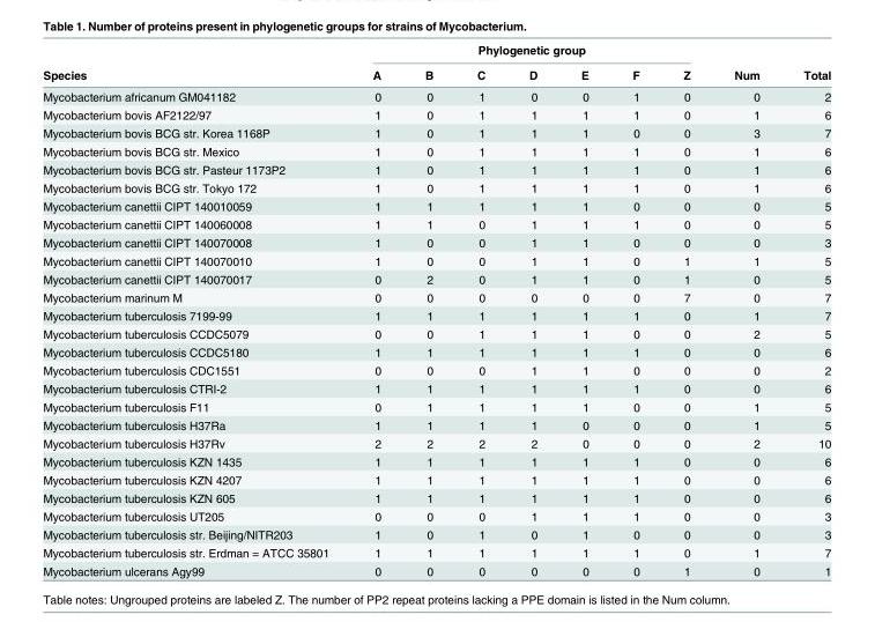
<table><thead><tr><td rowspan="2">Species</td><td colspan="7">Phylogenetic group</td><td rowspan="2">Num</td><td rowspan="2">Total</td></tr><tr><td>A</td><td>B</td><td>C</td><td>D</td><td>E</td><td>F</td><td>Z</td></tr></thead><tbody><tr><td>Mycobacterium africanum GM041182</td><td>0</td><td>0</td><td>1</td><td>0</td><td>0</td><td>1</td><td>0</td><td>0</td><td>2</td></tr><tr><td>Mycobacterium bovis AF2122/97</td><td>1</td><td>0</td><td>1</td><td>1</td><td>1</td><td>1</td><td>0</td><td>1</td><td>6</td></tr><tr><td>Mycobacterium bovis BCG str. Korea 1168P</td><td>1</td><td>0</td><td>1</td><td>1</td><td>1</td><td>0</td><td>0</td><td>3</td><td>7</td></tr><tr><td>Mycobacterium bovis BCG str. Mexico</td><td>1</td><td>0</td><td>1</td><td>1</td><td>1</td><td>1</td><td>0</td><td>1</td><td>6</td></tr><tr><td>Mycobacterium bovis BCG str. Pasteur 1173P2</td><td>1</td><td>0</td><td>1</td><td>1</td><td>1</td><td>1</td><td>0</td><td>1</td><td>6</td></tr><tr><td>Mycobacterium bovis BCG str. Tokyo 172</td><td>1</td><td>0</td><td>1</td><td>1</td><td>1</td><td>1</td><td>0</td><td>1</td><td>6</td></tr><tr><td>Mycobacterium canettii CIPT 140010059</td><td>1</td><td>1</td><td>1</td><td>1</td><td>1</td><td>0</td><td>0</td><td>0</td><td>5</td></tr><tr><td>Mycobacterium canettii CIPT 140060008</td><td>1</td><td>1</td><td>0</td><td>1</td><td>1</td><td>1</td><td>0</td><td>0</td><td>5</td></tr><tr><td>Mycobacterium canettii CIPT 140070008</td><td>1</td><td>0</td><td>0</td><td>1</td><td>1</td><td>0</td><td>0</td><td>0</td><td>3</td></tr><tr><td>Mycobacterium canettii CIPT 140070010</td><td>1</td><td>0</td><td>0</td><td>1</td><td>1</td><td>0</td><td>1</td><td>1</td><td>5</td></tr><tr><td>Mycobacterium canettii CIPT 140070017</td><td>0</td><td>2</td><td>0</td><td>1</td><td>1</td><td>0</td><td>1</td><td>0</td><td>5</td></tr><tr><td>Mycobacterium marinum M</td><td>0</td><td>0</td><td>0</td><td>0</td><td>0</td><td>0</td><td>7</td><td>0</td><td>7</td></tr><tr><td>Mycobacterium tuberculosis 7199-99</td><td>1</td><td>1</td><td>1</td><td>1</td><td>1</td><td>1</td><td>0</td><td>1</td><td>7</td></tr><tr><td>Mycobacterium tuberculosis CCDC5079</td><td>0</td><td>0</td><td>1</td><td>1</td><td>1</td><td>0</td><td>0</td><td>2</td><td>5</td></tr><tr><td>Mycobacterium tuberculosis CCDC5180</td><td>1</td><td>1</td><td>1</td><td>1</td><td>1</td><td>1</td><td>0</td><td>0</td><td>6</td></tr><tr><td>Mycobacterium tuberculosis CDC1551</td><td>0</td><td>0</td><td>0</td><td>1</td><td>1</td><td>0</td><td>0</td><td>0</td><td>2</td></tr><tr><td>Mycobacterium tuberculosis CTRI-2</td><td>1</td><td>1</td><td>1</td><td>1</td><td>1</td><td>1</td><td>0</td><td>0</td><td>6</td></tr><tr><td>Mycobacterium tuberculosis F11</td><td>0</td><td>1</td><td>1</td><td>1</td><td>1</td><td>0</td><td>0</td><td>1</td><td>5</td></tr><tr><td>Mycobacterium tuberculosis H37Ra</td><td>1</td><td>1</td><td>1</td><td>1</td><td>0</td><td>0</td><td>0</td><td>1</td><td>5</td></tr><tr><td>Mycobacterium tuberculosis H37Rv</td><td>2</td><td>2</td><td>2</td><td>2</td><td>0</td><td>0</td><td>0</td><td>2</td><td>10</td></tr><tr><td>Mycobacterium tuberculosis KZN 1435</td><td>1</td><td>1</td><td>1</td><td>1</td><td>1</td><td>1</td><td>0</td><td>0</td><td>6</td></tr><tr><td>Mycobacterium tuberculosis KZN 4207</td><td>1</td><td>1</td><td>1</td><td>1</td><td>1</td><td>1</td><td>0</td><td>0</td><td>6</td></tr><tr><td>Mycobacterium tuberculosis KZN 605</td><td>1</td><td>1</td><td>1</td><td>1</td><td>1</td><td>1</td><td>0</td><td>0</td><td>6</td></tr><tr><td>Mycobacterium tuberculosis UT205</td><td>0</td><td>0</td><td>0</td><td>1</td><td>1</td><td>1</td><td>0</td><td>0</td><td>3</td></tr><tr><td>Mycobacterium tuberculosis str. Beijing/NITR203</td><td>1</td><td>0</td><td>1</td><td>0</td><td>1</td><td>0</td><td>0</td><td>0</td><td>3</td></tr><tr><td>Mycobacterium tuberculosis str. Erdman = ATCC 35801</td><td>1</td><td>1</td><td>1</td><td>1</td><td>1</td><td>1</td><td>0</td><td>1</td><td>7</td></tr><tr><td>Mycobacterium ulcerans Agy99</td><td>0</td><td>0</td><td>0</td><td>0</td><td>0</td><td>0</td><td>1</td><td>0</td><td>1</td></tr></tbody></table>